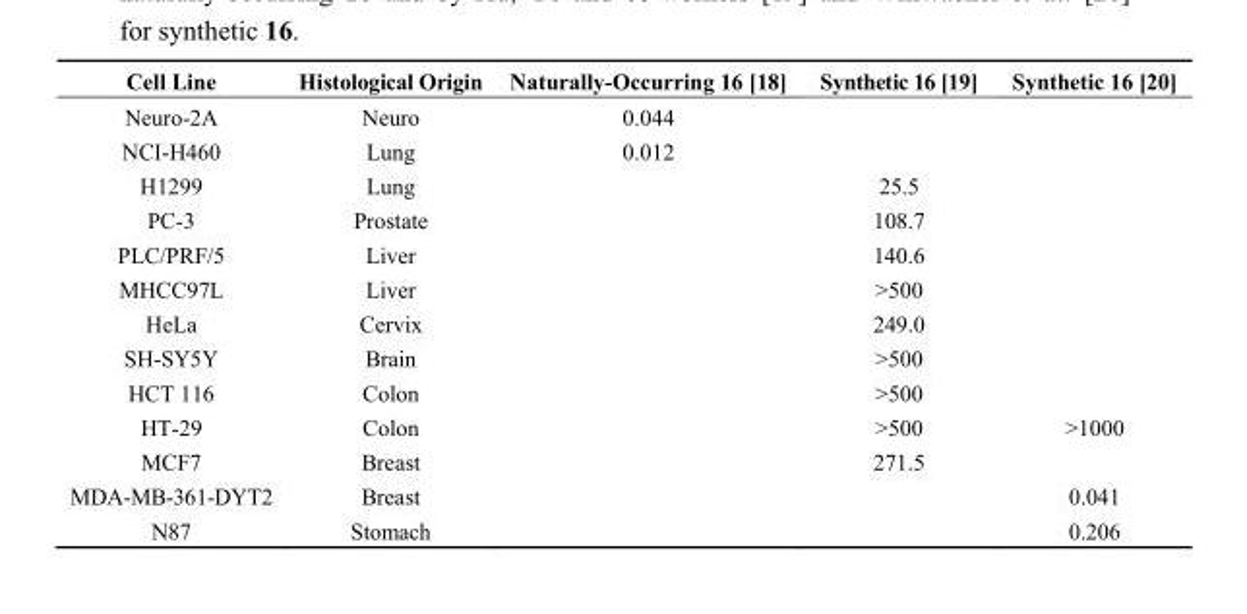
<table><thead><tr><td>Cell Line</td><td>Histological Origin</td><td>Naturally-Occurring 16 [18]</td><td>Synthetic 16 [19]</td><td>Synthetic 16 [20]</td></tr></thead><tbody><tr><td>Neuro-2A</td><td>Neuro</td><td>0.044</td><td></td><td></td></tr><tr><td>NCI-H460</td><td>Lung</td><td>0.012</td><td></td><td></td></tr><tr><td>H1299</td><td>Lung</td><td></td><td>25.5</td><td></td></tr><tr><td>PC-3</td><td>Prostate</td><td></td><td>108.7</td><td></td></tr><tr><td>PLC/PRF/5</td><td>Liver</td><td></td><td>140.6</td><td></td></tr><tr><td>MHCC97L</td><td>Liver</td><td></td><td>&gt;500</td><td></td></tr><tr><td>HeLa</td><td>Cervix</td><td></td><td>249.0</td><td></td></tr><tr><td>SH-SY5Y</td><td>Brain</td><td></td><td>&gt;500</td><td></td></tr><tr><td>HCT 116</td><td>Colon</td><td></td><td>&gt;500</td><td></td></tr><tr><td>HT-29</td><td>Colon</td><td></td><td>&gt;500</td><td>&gt;1000</td></tr><tr><td>MCF7</td><td>Breast</td><td></td><td>271.5</td><td></td></tr><tr><td>MDA-MB-361-DYT2</td><td>Breast</td><td></td><td></td><td>0.041</td></tr><tr><td>N87</td><td>Stomach</td><td></td><td></td><td>0.206</td></tr></tbody></table>